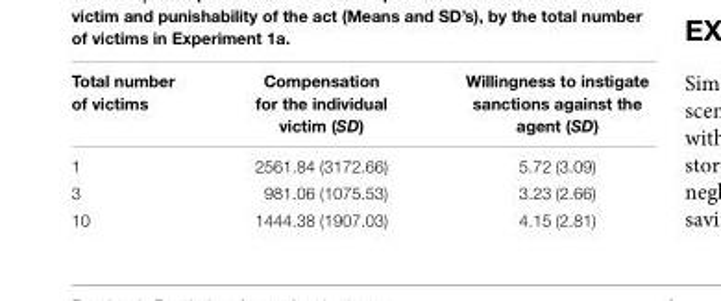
<table><thead><tr><td>Total number of victims</td><td>Compensation for the individual victim (SD)</td><td>Willingness to instigate sanctions against the agent (SD)</td></tr></thead><tbody><tr><td>1</td><td>2561.84 (3172.66)</td><td>5.72 (3.09)</td></tr><tr><td>3</td><td>981.06 (1075.53)</td><td>3.23 (2.66)</td></tr><tr><td>10</td><td>1444.38 (1907.03)</td><td>4.15 (2.81)</td></tr></tbody></table>